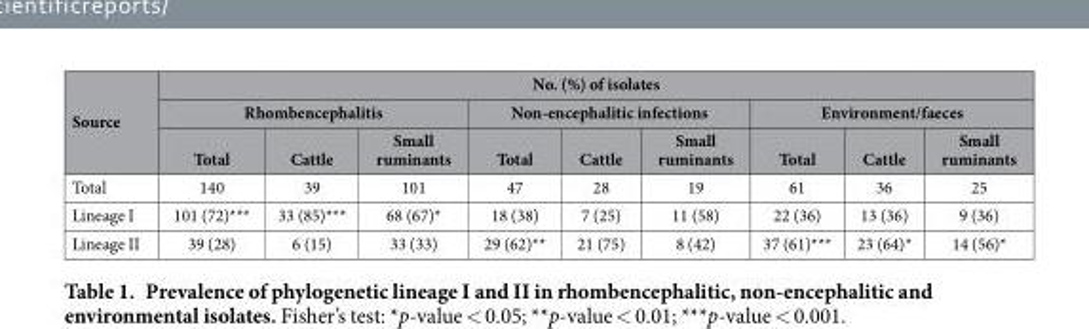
<table><thead><tr><td rowspan="3">Source</td><td colspan="9">No. (%) of isolates</td></tr><tr><td colspan="3">Rhombencephalitis</td><td colspan="3">Non-encephalitic infections</td><td colspan="3">Environment/faeces</td></tr><tr><td>Total</td><td>Cattle</td><td>Small ruminants</td><td>Total</td><td>Cattle</td><td>Small ruminants</td><td>Total</td><td>Cattle</td><td>Small ruminants</td></tr></thead><tbody><tr><td>Total</td><td>140</td><td>39</td><td>101</td><td>47</td><td>28</td><td>19</td><td>61</td><td>36</td><td>25</td></tr><tr><td>Lineage I</td><td>101 (72)***</td><td>33 (85)***</td><td>68 (67)*</td><td>18 (38)</td><td>7 (25)</td><td>11 (58)</td><td>22 (36)</td><td>13 (36)</td><td>9 (36)</td></tr><tr><td>Lineage II</td><td>39 (28)</td><td>6 (15)</td><td>33 (33)</td><td>29 (62)**</td><td>21 (75)</td><td>8 (42)</td><td>37 (61)***</td><td>23 (64)*</td><td>14 (56)*</td></tr></tbody></table>